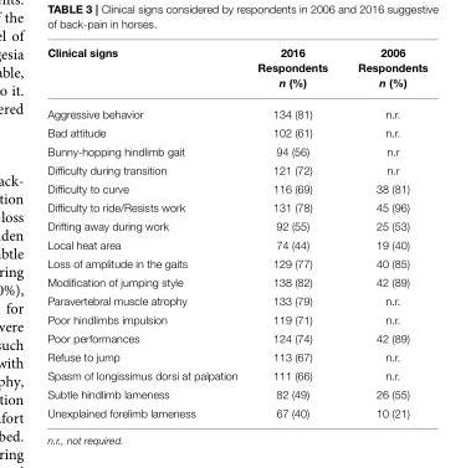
<table><thead><tr><td>Clinical signs</td><td>2016 Respondents n (%)</td><td>2006 Respondents n (%)</td></tr></thead><tbody><tr><td>Aggressive behavior</td><td>134 (81)</td><td>n.r.</td></tr><tr><td>Bad attitude</td><td>102 (61)</td><td>n.r.</td></tr><tr><td>Bunny-hopping hindlimb gait</td><td>94 (56)</td><td>n.r</td></tr><tr><td>Difficulty during transition</td><td>121 (72)</td><td>n.r</td></tr><tr><td>Difficulty to curve</td><td>116 (69)</td><td>38 (81)</td></tr><tr><td>Difficulty to ride/Resists work</td><td>131 (78)</td><td>45 (96)</td></tr><tr><td>Drifting away during work</td><td>92 (55)</td><td>25 (53)</td></tr><tr><td>Local heat area</td><td>74 (44)</td><td>19 (40)</td></tr><tr><td>Loss of amplitude in the gaits</td><td>129 (77)</td><td>40 (85)</td></tr><tr><td>Modification of jumping style</td><td>138 (82)</td><td>42 (89)</td></tr><tr><td>Paravertebral muscle atrophy</td><td>133 (79)</td><td>n.r.</td></tr><tr><td>Poor hindlimbs impulsion</td><td>119 (71)</td><td>n.r.</td></tr><tr><td>Poor performances</td><td>124 (74)</td><td>42 (89)</td></tr><tr><td>Refuse to jump</td><td>113 (67)</td><td>n.r.</td></tr><tr><td>Spasm of longissimus dorsi at palpation</td><td>111 (66)</td><td>n.r.</td></tr><tr><td>Subtle hindlimb lameness</td><td>82 (49)</td><td>26 (55)</td></tr><tr><td>Unexplained forelimb lameness</td><td>67 (40)</td><td>10 (21)</td></tr></tbody></table>